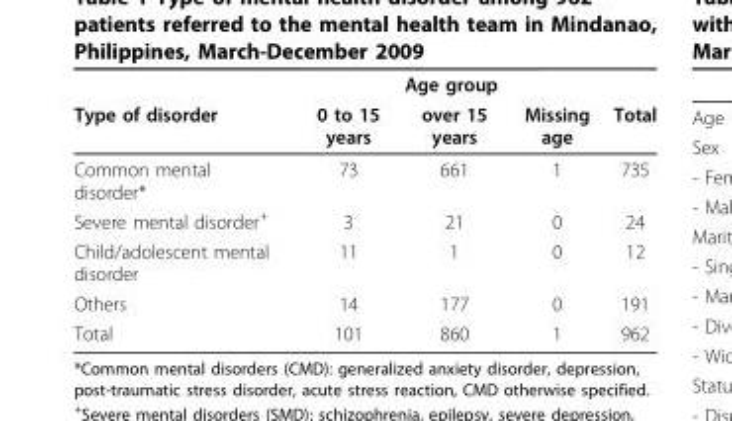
<table><thead><tr><td rowspan="2">Type of disorder</td><td colspan="3">Age group</td><td rowspan="2">Total</td></tr><tr><td>0 to 15 years</td><td>over 15 years</td><td>Missing age</td></tr></thead><tbody><tr><td>Common mental disorder*</td><td>73</td><td>661</td><td>1</td><td>735</td></tr><tr><td>Severe mental disorder<sup>+</sup></td><td>3</td><td>21</td><td>0</td><td>24</td></tr><tr><td>Child/adolescent mental disorder</td><td>11</td><td>1</td><td>0</td><td>12</td></tr><tr><td>Others</td><td>14</td><td>177</td><td>0</td><td>191</td></tr><tr><td>Total</td><td>101</td><td>860</td><td>1</td><td>962</td></tr></tbody></table>